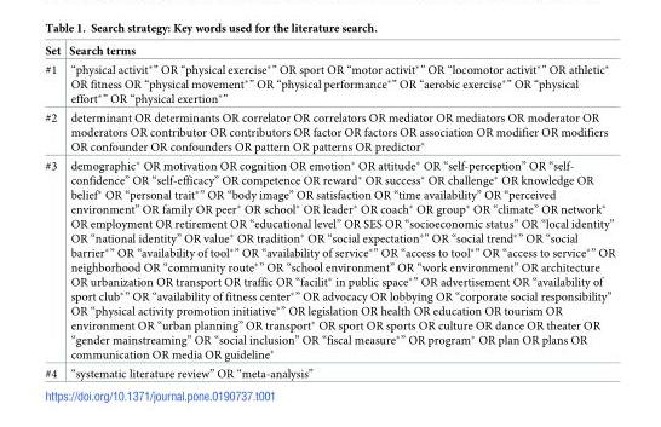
<table><thead><tr><td>Set</td><td>Search terms</td></tr></thead><tbody><tr><td>#1</td><td>“physical activit*” OR “physical exercise*” OR sport OR “motor activit*” OR “locomotor activit*” OR athletic* OR fitness OR “physical movement*” OR “physical performance*” OR “aerobic exercise*” OR “physical effort*” OR “physical exertion*”</td></tr><tr><td>#2</td><td>determinant OR determinants OR correlator OR correlators OR mediator OR mediators OR moderator OR moderators OR contributor OR contributors OR factor OR factors OR association OR modifier OR modifiers OR confounder OR confounders OR pattern OR patterns OR predictor*</td></tr><tr><td>#3</td><td>demographic* OR motivation OR cognition OR emotion* OR attitude* OR “self-perception” OR “self- confidence” OR “self-efficacy” OR competence OR reward* OR success* OR challenge* OR knowledge OR belief* OR “personal trait*” OR “body image” OR satisfaction OR “time availability” OR “perceived environment” OR family OR peer* OR school* OR leader* OR coach* OR group* OR “climate” OR network* OR employment OR retirement OR “educational level” OR SES OR “socioeconomic status” OR “local identity” OR “national identity” OR value* OR tradition* OR “social expectation*” OR “social trend*” OR “social barrier*” OR “availability of tool*” OR “availability of service*” OR “access to tool*” OR “access to service*” OR neighborhood OR “community route*” OR “school environment” OR “work environment” OR architecture OR urbanization OR transport OR traffic OR “facilit* in public space*” OR advertisement OR “availability of sport club*” OR “availability of fitness center*” OR advocacy OR lobbying OR “corporate social responsibility” OR “physical activity promotion initiative*” OR legislation OR health OR education OR tourism OR environment OR “urban planning” OR transport* OR sport OR sports OR culture OR dance OR theater OR “gender mainstreaming” OR “social inclusion” OR “fiscal measure*” OR program* OR plan OR plans OR communication OR media OR guideline*</td></tr><tr><td>#4</td><td>“systematic literature review” OR “meta-analysis”</td></tr></tbody></table>